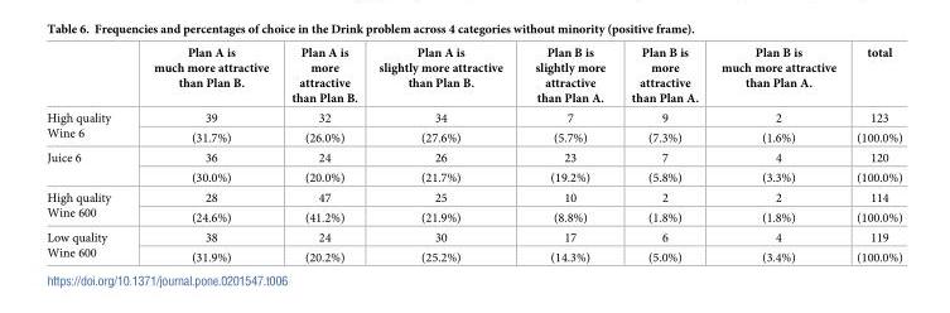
<table><thead><tr><td></td><td>Plan A is much more attractive than Plan B.</td><td>Plan A is more attractive than Plan B.</td><td>Plan A is slightly more attractive than Plan B.</td><td>Plan B is slightly more attractive than Plan A.</td><td>Plan B is more attractive than Plan A.</td><td>Plan B is much more attractive than Plan A.</td><td>total</td></tr></thead><tbody><tr><td rowspan="2">High quality Wine 6</td><td>39</td><td>32</td><td>34</td><td>7</td><td>9</td><td>2</td><td>123</td></tr><tr><td>(31.7%)</td><td>(26.0%)</td><td>(27.6%)</td><td>(5.7%)</td><td>(7.3%)</td><td>(1.6%)</td><td>(100.0%)</td></tr><tr><td rowspan="2">Juice 6</td><td>36</td><td>24</td><td>26</td><td>23</td><td>7</td><td>4</td><td>120</td></tr><tr><td>(30.0%)</td><td>(20.0%)</td><td>(21.7%)</td><td>(19.2%)</td><td>(5.8%)</td><td>(3.3%)</td><td>(100.0%)</td></tr><tr><td rowspan="2">High quality Wine 600</td><td>28</td><td>47</td><td>25</td><td>10</td><td>2</td><td>2</td><td>114</td></tr><tr><td>(24.6%)</td><td>(41.2%)</td><td>(21.9%)</td><td>(8.8%)</td><td>(1.8%)</td><td>(1.8%)</td><td>(100.0%)</td></tr><tr><td rowspan="2">Low quality Wine 600</td><td>38</td><td>24</td><td>30</td><td>17</td><td>6</td><td>4</td><td>119</td></tr><tr><td>(31.9%)</td><td>(20.2%)</td><td>(25.2%)</td><td>(14.3%)</td><td>(5.0%)</td><td>(3.4%)</td><td>(100.0%)</td></tr></tbody></table>